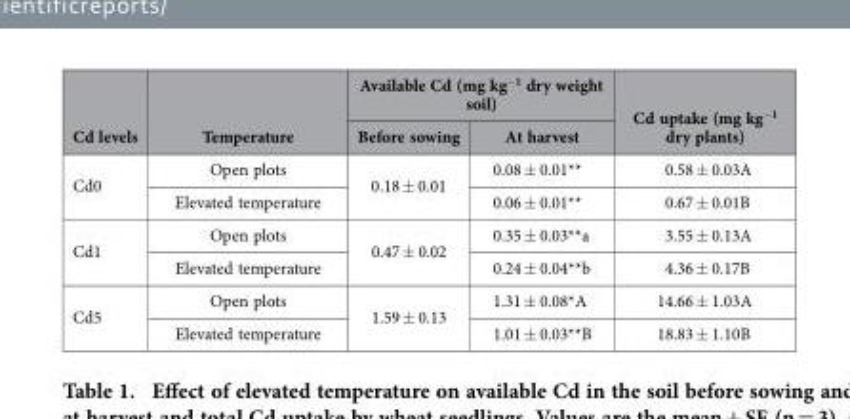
<table><thead><tr><td rowspan="2">Cd levels</td><td rowspan="2">Temperature</td><td colspan="2">Available Cd (mg kg<sup>−1</sup> dry weight soil)</td><td rowspan="2">Cd uptake (mg kg<sup>−1</sup> dry plants)</td></tr><tr><td>Before sowing</td><td>At harvest</td></tr></thead><tbody><tr><td rowspan="2">Cd0</td><td>Open plots</td><td rowspan="2">0.18 ± 0.01</td><td>0.08 ± 0.01**</td><td>0.58 ± 0.03A</td></tr><tr><td>Elevated temperature</td><td>0.06 ± 0.01**</td><td>0.67 ± 0.01B</td></tr><tr><td rowspan="2">Cd1</td><td>Open plots</td><td rowspan="2">0.47 ± 0.02</td><td>0.35 ± 0.03**a</td><td>3.55 ± 0.13A</td></tr><tr><td>Elevated temperature</td><td>0.24 ± 0.04**b</td><td>4.36 ± 0.17B</td></tr><tr><td rowspan="2">Cd5</td><td>Open plots</td><td rowspan="2">1.59 ± 0.13</td><td>1.31 ± 0.08*A</td><td>14.66 ± 1.03A</td></tr><tr><td>Elevated temperature</td><td>1.01 ± 0.03**B</td><td>18.83 ± 1.10B</td></tr></tbody></table>